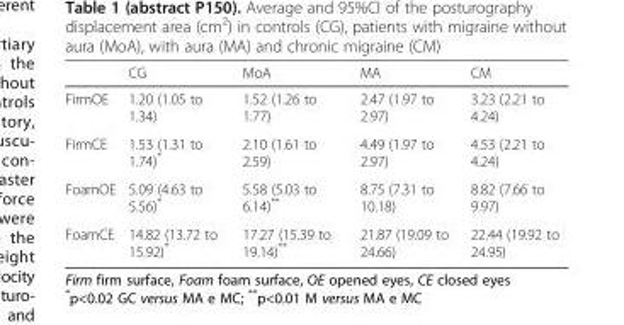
<table><thead><tr><td></td><td>CG</td><td>MoA</td><td>MA</td><td>CM</td></tr></thead><tbody><tr><td>FirmOE</td><td>1.20 (1.05 to 1.34)</td><td>1.52 (1.26 to 1.77)</td><td>2.47 (1.97 to 2.97)</td><td>3.23 (2.21 to 4.24)</td></tr><tr><td>FirmCE</td><td>1.53 (1.31 to 1.74)*</td><td>2.10 (1.61 to 2.59)</td><td>4.49 (1.97 to 2.97)</td><td>4.53 (2.21 to 4.24)</td></tr><tr><td>FoamOE</td><td>5.09 (4.63 to 5.56)*</td><td>5.58 (5.03 to 6.14)**</td><td>8.75 (7.31 to 10.18)</td><td>8.82 (7.66 to 9.97)</td></tr><tr><td>FoamCE</td><td>14.82 (13.72 to 15.92)*</td><td>17.27 (15.39 to 19.14)**</td><td>21.87 (19.09 to 24.66)</td><td>22.44 (19.92 to 24.95)</td></tr></tbody></table>